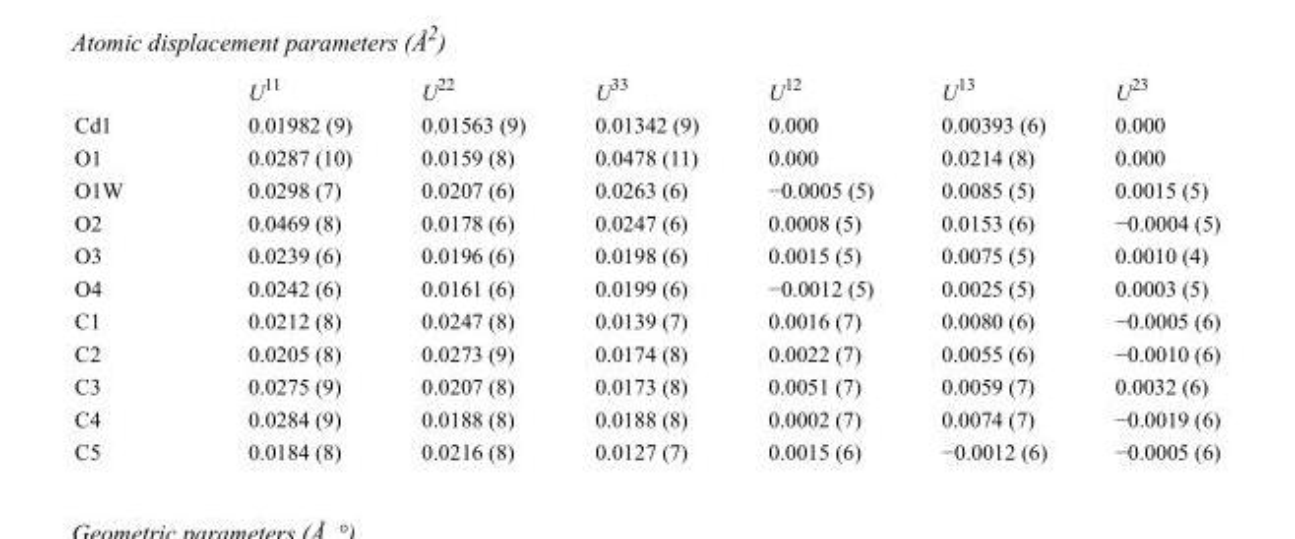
<table><thead><tr><td></td><td>U<sup>11</sup></td><td>U<sup>22</sup></td><td>U<sup>33</sup></td><td>U<sup>12</sup></td><td>U<sup>13</sup></td><td>U<sup>23</sup></td></tr></thead><tbody><tr><td>Cd1</td><td>0.01982 (9)</td><td>0.01563 (9)</td><td>0.01342 (9)</td><td>0.000</td><td>0.00393 (6)</td><td>0.000</td></tr><tr><td>O1</td><td>0.0287 (10)</td><td>0.0159 (8)</td><td>0.0478 (11)</td><td>0.000</td><td>0.0214 (8)</td><td>0.000</td></tr><tr><td>O1W</td><td>0.0298 (7)</td><td>0.0207 (6)</td><td>0.0263 (6)</td><td>−0.0005 (5)</td><td>0.0085 (5)</td><td>0.0015 (5)</td></tr><tr><td>O2</td><td>0.0469 (8)</td><td>0.0178 (6)</td><td>0.0247 (6)</td><td>0.0008 (5)</td><td>0.0153 (6)</td><td>−0.0004 (5)</td></tr><tr><td>O3</td><td>0.0239 (6)</td><td>0.0196 (6)</td><td>0.0198 (6)</td><td>0.0015 (5)</td><td>0.0075 (5)</td><td>0.0010 (4)</td></tr><tr><td>O4</td><td>0.0242 (6)</td><td>0.0161 (6)</td><td>0.0199 (6)</td><td>−0.0012 (5)</td><td>0.0025 (5)</td><td>0.0003 (5)</td></tr><tr><td>C1</td><td>0.0212 (8)</td><td>0.0247 (8)</td><td>0.0139 (7)</td><td>0.0016 (7)</td><td>0.0080 (6)</td><td>−0.0005 (6)</td></tr><tr><td>C2</td><td>0.0205 (8)</td><td>0.0273 (9)</td><td>0.0174 (8)</td><td>0.0022 (7)</td><td>0.0055 (6)</td><td>−0.0010 (6)</td></tr><tr><td>C3</td><td>0.0275 (9)</td><td>0.0207 (8)</td><td>0.0173 (8)</td><td>0.0051 (7)</td><td>0.0059 (7)</td><td>0.0032 (6)</td></tr><tr><td>C4</td><td>0.0284 (9)</td><td>0.0188 (8)</td><td>0.0188 (8)</td><td>0.0002 (7)</td><td>0.0074 (7)</td><td>−0.0019 (6)</td></tr><tr><td>C5</td><td>0.0184 (8)</td><td>0.0216 (8)</td><td>0.0127 (7)</td><td>0.0015 (6)</td><td>−0.0012 (6)</td><td>−0.0005 (6)</td></tr></tbody></table>